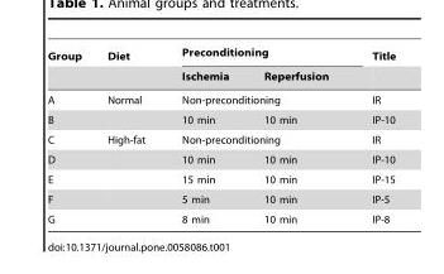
<table><thead><tr><td rowspan="2">Group</td><td rowspan="2">Diet</td><td colspan="2">Preconditioning</td><td rowspan="2">Title</td></tr><tr><td>Ischemia</td><td>Reperfusion</td></tr></thead><tbody><tr><td>A</td><td>Normal</td><td colspan="2">Non-preconditioning</td><td>IR</td></tr><tr><td>B</td><td></td><td>10 min</td><td>10 min</td><td>IP-10</td></tr><tr><td>C</td><td>High-fat</td><td colspan="2">Non-preconditioning</td><td>IR</td></tr><tr><td>D</td><td></td><td>10 min</td><td>10 min</td><td>IP-10</td></tr><tr><td>E</td><td></td><td>15 min</td><td>10 min</td><td>IP-15</td></tr><tr><td>F</td><td></td><td>5 min</td><td>10 min</td><td>IP-5</td></tr><tr><td>G</td><td></td><td>8 min</td><td>10 min</td><td>IP-8</td></tr></tbody></table>